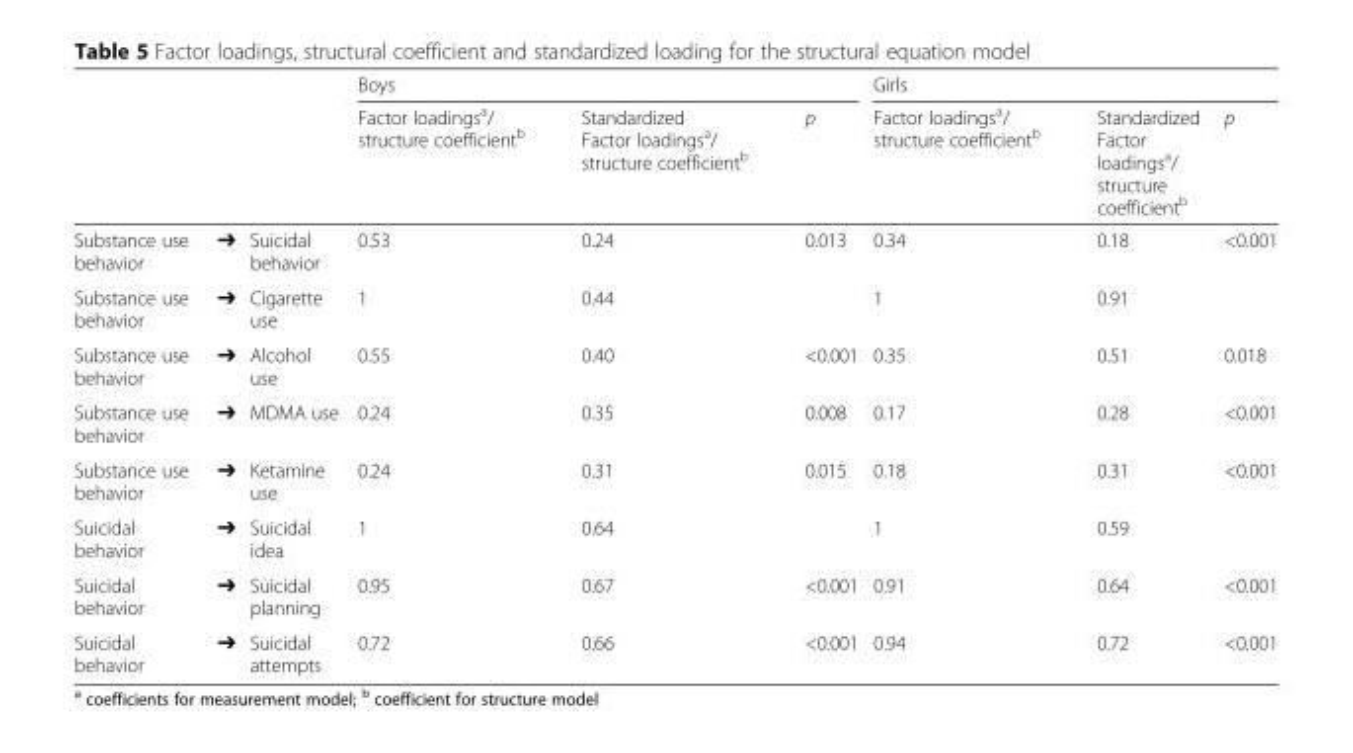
<table><thead><tr><td rowspan="2"></td><td rowspan="2"></td><td rowspan="2"></td><td colspan="3">Boys</td><td colspan="3">Girls</td></tr><tr><td>Factor loadings<sup>a</sup>/ structure coefficient<sup>b</sup></td><td>Standardized Factor loadings<sup>a</sup>/ structure coefficient<sup>b</sup></td><td>p</td><td>Factor loadings<sup>a</sup>/ structure coefficient<sup>b</sup></td><td>Standardized Factor loadings<sup>a</sup>/ structure coefficient<sup>b</sup></td><td>p</td></tr></thead><tbody><tr><td>Substance use behavior</td><td>➔</td><td>Suicidal behavior</td><td>0.53</td><td>0.24</td><td>0.013</td><td>0.34</td><td>0.18</td><td>&lt;0.001</td></tr><tr><td>Substance use behavior</td><td>➔</td><td>Cigarette use</td><td>1</td><td>0.44</td><td></td><td>1</td><td>0.91</td><td></td></tr><tr><td>Substance use behavior</td><td>➔</td><td>Alcohol use</td><td>0.55</td><td>0.40</td><td>&lt;0.001</td><td>0.35</td><td>0.51</td><td>0.018</td></tr><tr><td>Substance use behavior</td><td>➔</td><td>MDMA use</td><td>0.24</td><td>0.35</td><td>0.008</td><td>0.17</td><td>0.28</td><td>&lt;0.001</td></tr><tr><td>Substance use behavior</td><td>➔</td><td>Ketamine use</td><td>0.24</td><td>0.31</td><td>0.015</td><td>0.18</td><td>0.31</td><td>&lt;0.001</td></tr><tr><td>Suicidal behavior</td><td>➔</td><td>Suicidal idea</td><td>1</td><td>0.64</td><td></td><td>1</td><td>0.59</td><td></td></tr><tr><td>Suicidal behavior</td><td>➔</td><td>Suicidal planning</td><td>0.95</td><td>0.67</td><td>&lt;0.001</td><td>0.91</td><td>0.64</td><td>&lt;0.001</td></tr><tr><td>Suicidal behavior</td><td>➔</td><td>Suicidal attempts</td><td>0.72</td><td>0.66</td><td>&lt;0.001</td><td>0.94</td><td>0.72</td><td>&lt;0.001</td></tr></tbody></table>